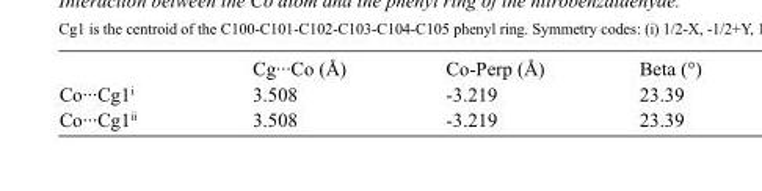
<table><thead><tr><td></td><td>Cg···Co (Å)</td><td>Co-Perp (Å)</td><td>Beta (°)</td></tr></thead><tbody><tr><td>Co···Cg1<sup>i</sup></td><td>3.508</td><td>-3.219</td><td>23.39</td></tr><tr><td>Co···Cg1<sup>ii</sup></td><td>3.508</td><td>-3.219</td><td>23.39</td></tr></tbody></table>